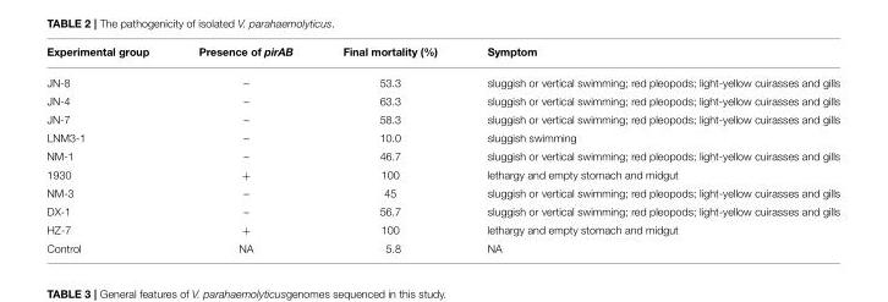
<table><thead><tr><td>Experimental group</td><td>Presence of pirAB</td><td>Final mortality (%)</td><td>Symptom</td></tr></thead><tbody><tr><td>JN-8</td><td>–</td><td>53.3</td><td>sluggish or vertical swimming; red pleopods; light-yellow cuirasses and gills</td></tr><tr><td>JN-4</td><td>–</td><td>63.3</td><td>sluggish or vertical swimming; red pleopods; light-yellow cuirasses and gills</td></tr><tr><td>JN-7</td><td>–</td><td>58.3</td><td>sluggish or vertical swimming; red pleopods; light-yellow cuirasses and gills</td></tr><tr><td>LNM3-1</td><td>–</td><td>10.0</td><td>sluggish swimming</td></tr><tr><td>NM-1</td><td>–</td><td>46.7</td><td>sluggish or vertical swimming; red pleopods; light-yellow cuirasses and gills</td></tr><tr><td>1930</td><td>+</td><td>100</td><td>lethargy and empty stomach and midgut</td></tr><tr><td>NM-3</td><td>–</td><td>45</td><td>sluggish or vertical swimming; red pleopods; light-yellow cuirasses and gills</td></tr><tr><td>DX-1</td><td>–</td><td>56.7</td><td>sluggish or vertical swimming; red pleopods; light-yellow cuirasses and gills</td></tr><tr><td>HZ-7</td><td>+</td><td>100</td><td>lethargy and empty stomach and midgut</td></tr><tr><td>Control</td><td>NA</td><td>5.8</td><td>NA</td></tr></tbody></table>